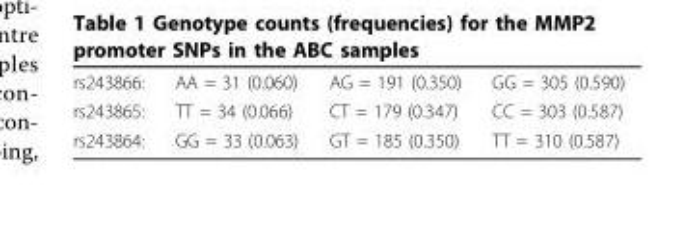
<table><tbody><tr><td>rs243866:</td><td>AA = 31 (0.060)</td><td>AG = 191 (0.350)</td><td>GG = 305 (0.590)</td></tr><tr><td>rs243865:</td><td>TT = 34 (0.066)</td><td>CT = 179 (0.347)</td><td>CC = 303 (0.587)</td></tr><tr><td>rs243864:</td><td>GG = 33 (0.063)</td><td>GT = 185 (0.350)</td><td>TT = 310 (0.587)</td></tr></tbody></table>